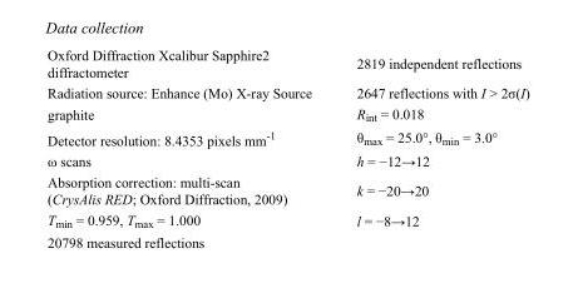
<table><tbody><tr><td>Oxford Diffraction Xcalibur Sapphire2 diffractometer</td><td>2819 independent reflections</td></tr><tr><td>Radiation source: Enhance (Mo) X-ray Source</td><td>2647 reflections with I &gt; 2σ(I)</td></tr><tr><td>graphite</td><td>R<sub>int</sub> = 0.018</td></tr><tr><td>Detector resolution: 8.4353 pixels mm<sup>-1</sup></td><td>θ<sub>max</sub> = 25.0°, θ<sub>min</sub> = 3.0°</td></tr><tr><td>ω scans</td><td>h = −12→12</td></tr><tr><td>Absorption correction: multi-scan (CrysAlis RED; Oxford Diffraction, 2009)</td><td>k = −20→20</td></tr><tr><td>T<sub>min</sub> = 0.959, T<sub>max</sub> = 1.000</td><td>l = −8→12</td></tr><tr><td>20798 measured reflections</td><td></td></tr></tbody></table>